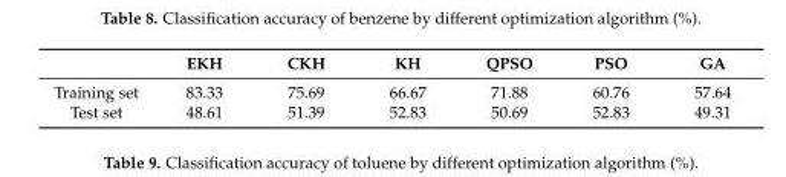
<table><thead><tr><td></td><td>EKH</td><td>CKH</td><td>KH</td><td>QPSO</td><td>PSO</td><td>GA</td></tr></thead><tbody><tr><td>Training set</td><td>83.33</td><td>75.69</td><td>66.67</td><td>71.88</td><td>60.76</td><td>57.64</td></tr><tr><td>Test set</td><td>48.61</td><td>51.39</td><td>52.83</td><td>50.69</td><td>52.83</td><td>49.31</td></tr></tbody></table>